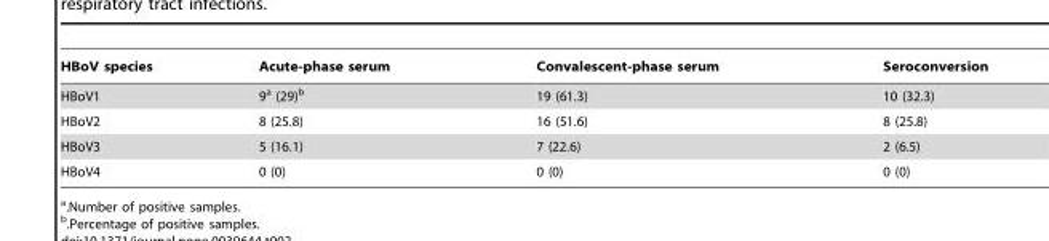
<table><thead><tr><td>HBoV species</td><td>Acute-phase serum</td><td>Convalescent-phase serum</td><td>Seroconversion</td></tr></thead><tbody><tr><td>HBoV1</td><td>9<sup>a</sup> (29)<sup>b</sup></td><td>19 (61.3)</td><td>10 (32.3)</td></tr><tr><td>HBoV2</td><td>8 (25.8)</td><td>16 (51.6)</td><td>8 (25.8)</td></tr><tr><td>HBoV3</td><td>5 (16.1)</td><td>7 (22.6)</td><td>2 (6.5)</td></tr><tr><td>HBoV4</td><td>0 (0)</td><td>0 (0)</td><td>0 (0)</td></tr></tbody></table>